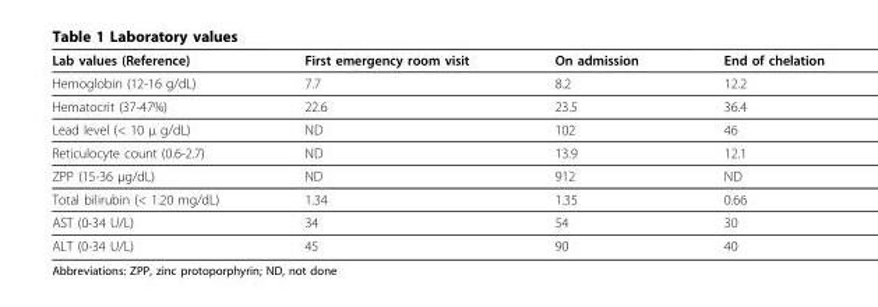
<table><thead><tr><td>Lab values (Reference)</td><td>First emergency room visit</td><td>On admission</td><td>End of chelation</td></tr></thead><tbody><tr><td>Hemoglobin (12-16 g/dL)</td><td>7.7</td><td>8.2</td><td>12.2</td></tr><tr><td>Hematocrit (37-47%)</td><td>22.6</td><td>23.5</td><td>36.4</td></tr><tr><td>Lead level (&lt; 10 μ g/dL)</td><td>ND</td><td>102</td><td>46</td></tr><tr><td>Reticulocyte count (0.6-2.7)</td><td>ND</td><td>13.9</td><td>12.1</td></tr><tr><td>ZPP (15-36 μg/dL)</td><td>ND</td><td>912</td><td>ND</td></tr><tr><td>Total bilirubin (&lt; 1.20 mg/dL)</td><td>1.34</td><td>1.35</td><td>0.66</td></tr><tr><td>AST (0-34 U/L)</td><td>34</td><td>54</td><td>30</td></tr><tr><td>ALT (0-34 U/L)</td><td>45</td><td>90</td><td>40</td></tr></tbody></table>